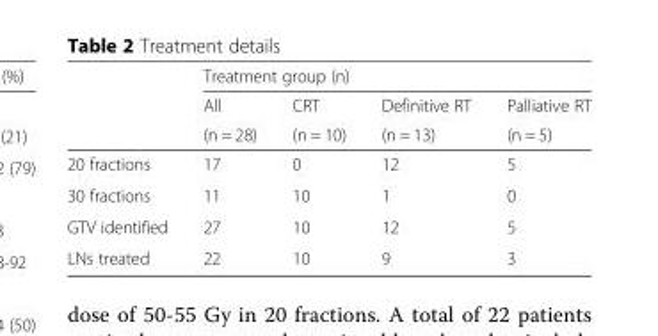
<table><thead><tr><td rowspan="3"></td><td colspan="4">Treatment group (n)</td></tr><tr><td rowspan="2">All (n = 28)</td><td rowspan="2">CRT (n = 10)</td><td rowspan="2">Definitive RT (n = 13)</td><td rowspan="2">Palliative RT (n = 5)</td></tr><tr></tr></thead><tbody><tr><td>20 fractions</td><td>17</td><td>0</td><td>12</td><td>5</td></tr><tr><td>30 fractions</td><td>11</td><td>10</td><td>1</td><td>0</td></tr><tr><td>GTV identified</td><td>27</td><td>10</td><td>12</td><td>5</td></tr><tr><td>LNs treated</td><td>22</td><td>10</td><td>9</td><td>3</td></tr></tbody></table>